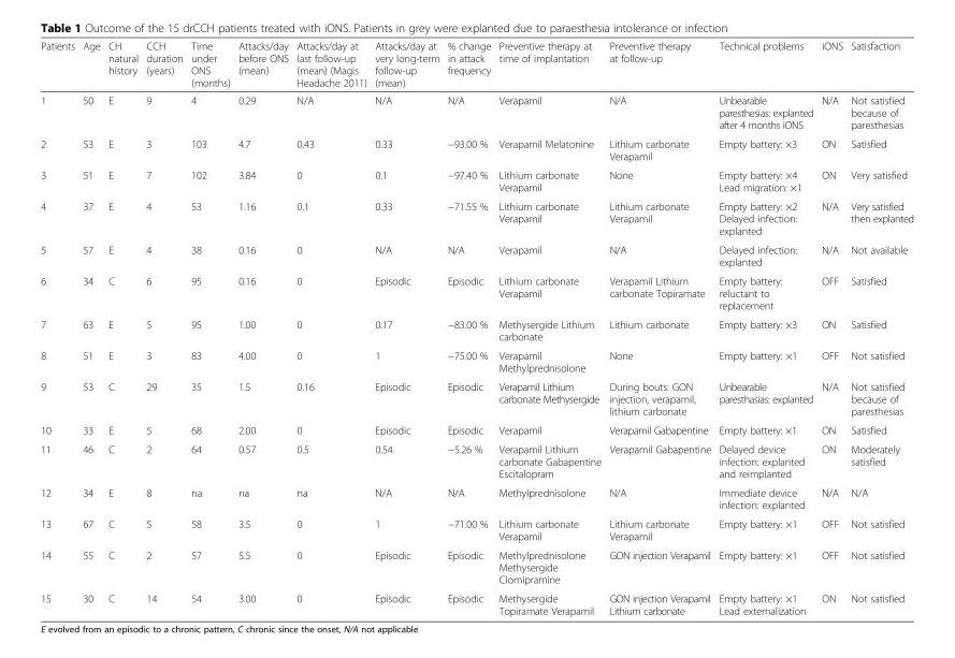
<table><thead><tr><td>Patients</td><td>Age</td><td>CH natural history</td><td>CCH duration (years)</td><td>Time under ONS (months)</td><td>Attacks/day before ONS (mean)</td><td>Attacks/day at last follow-up (mean) (Magis Headache 2011)</td><td>Attacks/day at very long-term follow-up (mean)</td><td>% change in attack frequency</td><td>Preventive therapy at time of implantation</td><td>Preventive therapy at follow-up</td><td>Technical problems</td><td>iONS</td><td>Satisfaction</td></tr></thead><tbody><tr><td>1</td><td>50</td><td>E</td><td>9</td><td>4</td><td>0.29</td><td>N/A</td><td>N/A</td><td>N/A</td><td>Verapamil</td><td>N/A</td><td>Unbearable paresthesias: explanted after 4 months iONS</td><td>N/A</td><td>Not satisfied because of paresthesias</td></tr><tr><td>2</td><td>53</td><td>E</td><td>3</td><td>103</td><td>4.7</td><td>0.43</td><td>0.33</td><td>−93.00 %</td><td>Verapamil Melatonine</td><td>Lithium carbonate Verapamil</td><td>Empty battery: ×3</td><td>ON</td><td>Satisfied</td></tr><tr><td>3</td><td>51</td><td>E</td><td>7</td><td>102</td><td>3.84</td><td>0</td><td>0.1</td><td>−97.40 %</td><td>Lithium carbonate Verapamil</td><td>None</td><td>Empty battery: ×4 Lead migration: ×1</td><td>ON</td><td>Very satisfied</td></tr><tr><td>4</td><td>37</td><td>E</td><td>4</td><td>53</td><td>1.16</td><td>0.1</td><td>0.33</td><td>−71.55 %</td><td>Lithium carbonate Verapamil</td><td>Lithium carbonate Verapamil</td><td>Empty battery: ×2 Delayed infection: explanted</td><td>N/A</td><td>Very satisfied then explanted</td></tr><tr><td>5</td><td>57</td><td>E</td><td>4</td><td>38</td><td>0.16</td><td>0</td><td>N/A</td><td>N/A</td><td>Verapamil</td><td>N/A</td><td>Delayed infection: explanted</td><td>N/A</td><td>Not available</td></tr><tr><td>6</td><td>34</td><td>C</td><td>6</td><td>95</td><td>0.16</td><td>0</td><td>Episodic</td><td>Episodic</td><td>Lithium carbonate Verapamil</td><td>Verapamil Lithium carbonate Topiramate</td><td>Empty battery: reluctant to replacement</td><td>OFF</td><td>Satisfied</td></tr><tr><td>7</td><td>63</td><td>E</td><td>5</td><td>95</td><td>1.00</td><td>0</td><td>0.17</td><td>−83.00 %</td><td>Methysergide Lithium carbonate</td><td>Lithium carbonate</td><td>Empty battery: ×3</td><td>ON</td><td>Satisfied</td></tr><tr><td>8</td><td>51</td><td>E</td><td>3</td><td>83</td><td>4.00</td><td>0</td><td>1</td><td>−75.00 %</td><td>Verapamil Methylprednisolone</td><td>None</td><td>Empty battery: ×1</td><td>OFF</td><td>Not satisfied</td></tr><tr><td>9</td><td>53</td><td>C</td><td>29</td><td>35</td><td>1.5</td><td>0.16</td><td>Episodic</td><td>Episodic</td><td>Verapamil Lithium carbonate Methysergide</td><td>During bouts: GON injection, verapamil, lithium carbonate</td><td>Unbearable paresthasias: explanted</td><td>N/A</td><td>Not satisfied because of paresthesias</td></tr><tr><td>10</td><td>33</td><td>E</td><td>5</td><td>68</td><td>2.00</td><td>0</td><td>Episodic</td><td>Episodic</td><td>Verapamil</td><td>Verapamil Gabapentine</td><td>Empty battery: ×1</td><td>ON</td><td>Satisfied</td></tr><tr><td>11</td><td>46</td><td>C</td><td>2</td><td>64</td><td>0.57</td><td>0.5</td><td>0.54</td><td>−5.26 %</td><td>Verapamil Lithium carbonate Gabapentine Escitalopram</td><td>Verapamil Gabapentine</td><td>Delayed device infection: explanted and reimplanted</td><td>ON</td><td>Moderately satisfied</td></tr><tr><td>12</td><td>34</td><td>E</td><td>8</td><td>na</td><td>na</td><td>na</td><td>N/A</td><td>N/A</td><td>Methylprednisolone</td><td>N/A</td><td>Immediate device infection: explanted</td><td>N/A</td><td>N/A</td></tr><tr><td>13</td><td>67</td><td>C</td><td>5</td><td>58</td><td>3.5</td><td>0</td><td>1</td><td>−71.00 %</td><td>Lithium carbonate Verapamil</td><td>Lithium carbonate Verapamil</td><td>Empty battery: ×1</td><td>OFF</td><td>Not satisfied</td></tr><tr><td>14</td><td>55</td><td>C</td><td>2</td><td>57</td><td>5.5</td><td>0</td><td>Episodic</td><td>Episodic</td><td>Methylprednisolone Methysergide Clomipramine</td><td>GON injection Verapamil</td><td>Empty battery: ×1</td><td>OFF</td><td>Not satisfied</td></tr><tr><td>15</td><td>30</td><td>C</td><td>14</td><td>54</td><td>3.00</td><td>0</td><td>Episodic</td><td>Episodic</td><td>Methysergide Topiramate Verapamil</td><td>GON injection Verapamil Lithium carbonate</td><td>Empty battery: ×1 Lead externalization</td><td>ON</td><td>Not satisfied</td></tr></tbody></table>